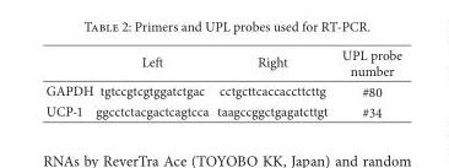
<table><thead><tr><td></td><td>Left</td><td>Right</td><td>UPL probe number</td></tr></thead><tbody><tr><td>GAPDH</td><td>tgtccgtcgtggatctgac</td><td>cctgcttcaccaccttcttg</td><td>#80</td></tr><tr><td>UCP-1</td><td>ggcctctacgactcagtcca</td><td>taagccggctgagatcttgt</td><td>#34</td></tr></tbody></table>